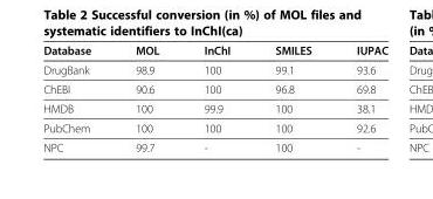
<table><thead><tr><td>Database</td><td>MOL</td><td>InChI</td><td>SMILES</td><td>IUPAC</td></tr></thead><tbody><tr><td>DrugBank</td><td>98.9</td><td>100</td><td>99.1</td><td>93.6</td></tr><tr><td>ChEBI</td><td>90.6</td><td>100</td><td>96.8</td><td>69.8</td></tr><tr><td>HMDB</td><td>100</td><td>99.9</td><td>100</td><td>38.1</td></tr><tr><td>PubChem</td><td>100</td><td>100</td><td>100</td><td>92.6</td></tr><tr><td>NPC</td><td>99.7</td><td>-</td><td>100</td><td>-</td></tr></tbody></table>